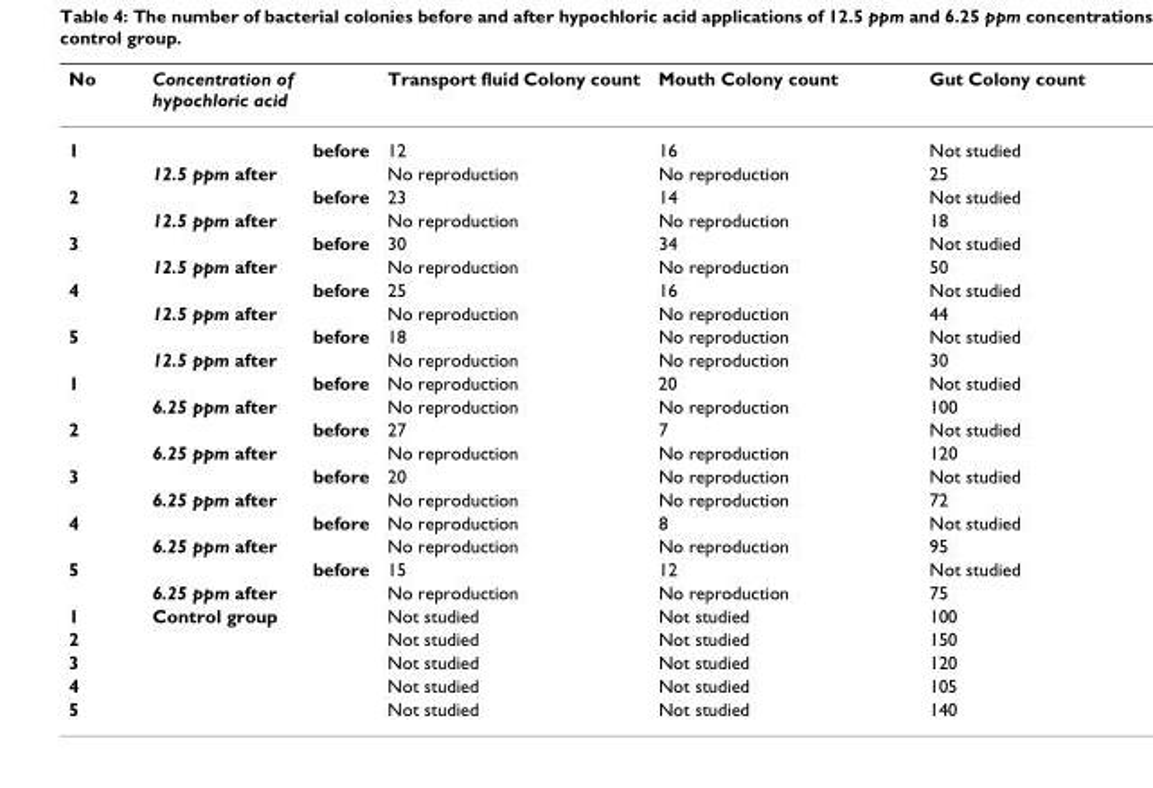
<table><thead><tr><td>No</td><td>Concentration of hypochloric acid</td><td>Transport fluid Colony count</td><td>Mouth Colony count</td><td>Gut Colony count</td></tr></thead><tbody><tr><td rowspan="2">1</td><td>before</td><td>12</td><td>16</td><td>Not studied</td></tr><tr><td>12.5 ppm after</td><td>No reproduction</td><td>No reproduction</td><td>25</td></tr><tr><td rowspan="2">2</td><td>before</td><td>23</td><td>14</td><td>Not studied</td></tr><tr><td>12.5 ppm after</td><td>No reproduction</td><td>No reproduction</td><td>18</td></tr><tr><td rowspan="2">3</td><td>before</td><td>30</td><td>34</td><td>Not studied</td></tr><tr><td>12.5 ppm after</td><td>No reproduction</td><td>No reproduction</td><td>50</td></tr><tr><td rowspan="2">4</td><td>before</td><td>25</td><td>16</td><td>Not studied</td></tr><tr><td>12.5 ppm after</td><td>No reproduction</td><td>No reproduction</td><td>44</td></tr><tr><td rowspan="2">5</td><td>before</td><td>18</td><td>No reproduction</td><td>Not studied</td></tr><tr><td>12.5 ppm after</td><td>No reproduction</td><td>No reproduction</td><td>30</td></tr><tr><td rowspan="2">1</td><td>before</td><td>No reproduction</td><td>20</td><td>Not studied</td></tr><tr><td>6.25 ppm after</td><td>No reproduction</td><td>No reproduction</td><td>100</td></tr><tr><td rowspan="2">2</td><td>before</td><td>27</td><td>7</td><td>Not studied</td></tr><tr><td>6.25 ppm after</td><td>No reproduction</td><td>No reproduction</td><td>120</td></tr><tr><td rowspan="2">3</td><td>before</td><td>20</td><td>No reproduction</td><td>Not studied</td></tr><tr><td>6.25 ppm after</td><td>No reproduction</td><td>No reproduction</td><td>72</td></tr><tr><td rowspan="2">4</td><td>before</td><td>No reproduction</td><td>8</td><td>Not studied</td></tr><tr><td>6.25 ppm after</td><td>No reproduction</td><td>No reproduction</td><td>95</td></tr><tr><td rowspan="2">5</td><td>before</td><td>15</td><td>12</td><td>Not studied</td></tr><tr><td>6.25 ppm after</td><td>No reproduction</td><td>No reproduction</td><td>75</td></tr><tr><td>1</td><td>Control group</td><td>Not studied</td><td>Not studied</td><td>100</td></tr><tr><td>2</td><td></td><td>Not studied</td><td>Not studied</td><td>150</td></tr><tr><td>3</td><td></td><td>Not studied</td><td>Not studied</td><td>120</td></tr><tr><td>4</td><td></td><td>Not studied</td><td>Not studied</td><td>105</td></tr><tr><td>5</td><td></td><td>Not studied</td><td>Not studied</td><td>140</td></tr></tbody></table>